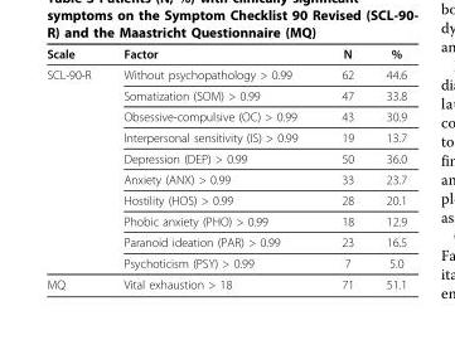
<table><thead><tr><td>Scale</td><td>Factor</td><td>N</td><td>%</td></tr></thead><tbody><tr><td rowspan="10">SCL-90-R</td><td>Without psychopathology &gt; 0.99</td><td>62</td><td>44.6</td></tr><tr><td>Somatization (SOM) &gt; 0.99</td><td>47</td><td>33.8</td></tr><tr><td>Obsessive-compulsive (OC) &gt; 0.99</td><td>43</td><td>30.9</td></tr><tr><td>Interpersonal sensitivity (IS) &gt; 0.99</td><td>19</td><td>13.7</td></tr><tr><td>Depression (DEP) &gt; 0.99</td><td>50</td><td>36.0</td></tr><tr><td>Anxiety (ANX) &gt; 0.99</td><td>33</td><td>23.7</td></tr><tr><td>Hostility (HOS) &gt; 0.99</td><td>28</td><td>20.1</td></tr><tr><td>Phobic anxiety (PHO) &gt; 0.99</td><td>18</td><td>12.9</td></tr><tr><td>Paranoid ideation (PAR) &gt; 0.99</td><td>23</td><td>16.5</td></tr><tr><td>Psychoticism (PSY) &gt; 0.99</td><td>7</td><td>5.0</td></tr><tr><td>MQ</td><td>Vital exhaustion &gt; 18</td><td>71</td><td>51.1</td></tr></tbody></table>